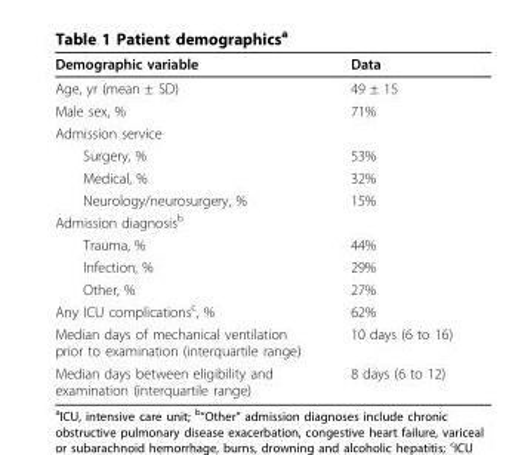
<table><thead><tr><td>Demographic variable</td><td>Data</td></tr></thead><tbody><tr><td>Age, yr (mean ± SD)</td><td>49 ± 15</td></tr><tr><td>Male sex, %</td><td>71%</td></tr><tr><td colspan="2">Admission service</td></tr><tr><td>Surgery, %</td><td>53%</td></tr><tr><td>Medical, %</td><td>32%</td></tr><tr><td>Neurology/neurosurgery, %</td><td>15%</td></tr><tr><td colspan="2">Admission diagnosis<sup>b</sup></td></tr><tr><td>Trauma, %</td><td>44%</td></tr><tr><td>Infection, %</td><td>29%</td></tr><tr><td>Other, %</td><td>27%</td></tr><tr><td>Any ICU complications<sup>c</sup>, %</td><td>62%</td></tr><tr><td>Median days of mechanical ventilation prior to examination (interquartile range)</td><td>10 days (6 to 16)</td></tr><tr><td>Median days between eligibility and examination (interquartile range)</td><td>8 days (6 to 12)</td></tr></tbody></table>